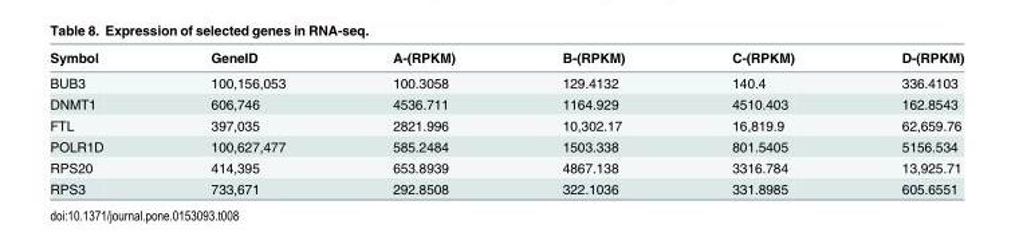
<table><thead><tr><td>Symbol</td><td>GeneID</td><td>A-(RPKM)</td><td>B-(RPKM)</td><td>C-(RPKM)</td><td>D-(RPKM)</td></tr></thead><tbody><tr><td>BUB3</td><td>100,156,053</td><td>100.3058</td><td>129.4132</td><td>140.4</td><td>336.4103</td></tr><tr><td>DNMT1</td><td>606,746</td><td>4536.711</td><td>1164.929</td><td>4510.403</td><td>162.8543</td></tr><tr><td>FTL</td><td>397,035</td><td>2821.996</td><td>10,302.17</td><td>16,819.9</td><td>62,659.76</td></tr><tr><td>POLR1D</td><td>100,627,477</td><td>585.2484</td><td>1503.338</td><td>801.5405</td><td>5156.534</td></tr><tr><td>RPS20</td><td>414,395</td><td>653.8939</td><td>4867.138</td><td>3316.784</td><td>13,925.71</td></tr><tr><td>RPS3</td><td>733,671</td><td>292.8508</td><td>322.1036</td><td>331.8985</td><td>605.6551</td></tr></tbody></table>